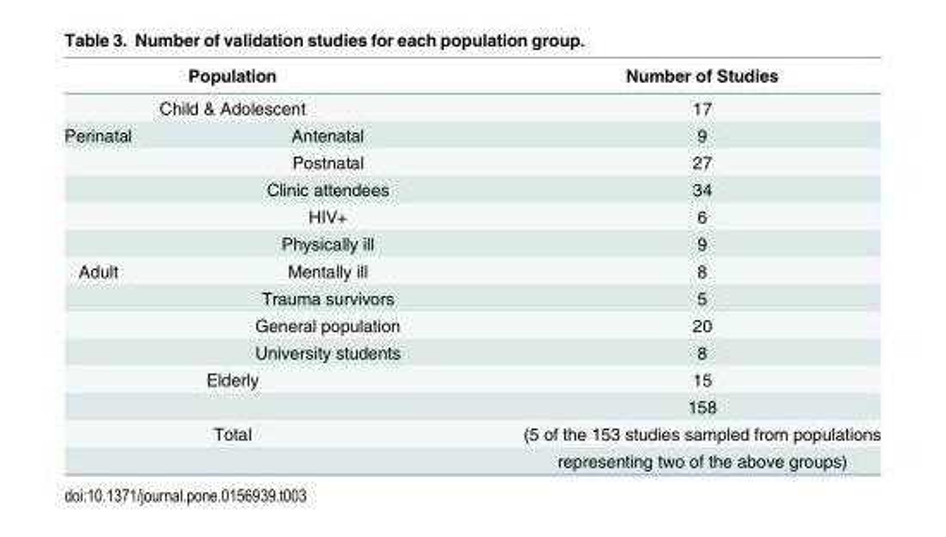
<table><thead><tr><td rowspan="2" colspan="2">Population Child &amp; Adolescent</td><td rowspan="3">Number of Studies 17 9</td></tr><tr></tr><tr><td>Perinatal</td><td>Antenatal</td></tr></thead><tbody><tr><td></td><td>Postnatal</td><td>27</td></tr><tr><td></td><td>Clinic attendees</td><td>34</td></tr><tr><td></td><td>HIV+</td><td>6</td></tr><tr><td></td><td>Physically ill</td><td>9</td></tr><tr><td rowspan="4">Adult</td><td>Mentally ill</td><td>8</td></tr><tr><td>Trauma survivors</td><td>5</td></tr><tr><td>General population</td><td>20</td></tr><tr><td>University students</td><td>8</td></tr><tr><td rowspan="2" colspan="2">Elderly</td><td>15</td></tr><tr><td>158</td></tr><tr><td rowspan="2" colspan="2">Total</td><td>(5 of the 153 studies sampled from populations</td></tr><tr><td>representing two of the above groups)</td></tr></tbody></table>